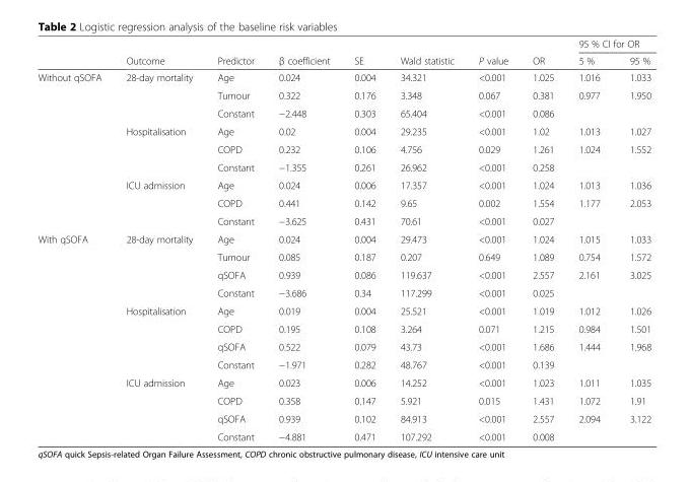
<table><thead><tr><td rowspan="2"></td><td rowspan="2">Outcome</td><td rowspan="2">Predictor</td><td rowspan="2">β coefficient</td><td rowspan="2">SE</td><td rowspan="2">Wald statistic</td><td rowspan="2">P value</td><td rowspan="2">OR</td><td colspan="2">95 % CI for OR</td></tr><tr><td>5 %</td><td>95 %</td></tr></thead><tbody><tr><td rowspan="9">Without qSOFA</td><td>28-day mortality</td><td>Age</td><td>0.024</td><td>0.004</td><td>34.321</td><td>&lt;0.001</td><td>1.025</td><td>1.016</td><td>1.033</td></tr><tr><td></td><td>Tumour</td><td>0.322</td><td>0.176</td><td>3.348</td><td>0.067</td><td>0.381</td><td>0.977</td><td>1.950</td></tr><tr><td></td><td>Constant</td><td>−2.448</td><td>0.303</td><td>65.404</td><td>&lt;0.001</td><td>0.086</td><td></td><td></td></tr><tr><td>Hospitalisation</td><td>Age</td><td>0.02</td><td>0.004</td><td>29.235</td><td>&lt;0.001</td><td>1.02</td><td>1.013</td><td>1.027</td></tr><tr><td></td><td>COPD</td><td>0.232</td><td>0.106</td><td>4.756</td><td>0.029</td><td>1.261</td><td>1.024</td><td>1.552</td></tr><tr><td></td><td>Constant</td><td>−1.355</td><td>0.261</td><td>26.962</td><td>&lt;0.001</td><td>0.258</td><td></td><td></td></tr><tr><td>ICU admission</td><td>Age</td><td>0.024</td><td>0.006</td><td>17.357</td><td>&lt;0.001</td><td>1.024</td><td>1.013</td><td>1.036</td></tr><tr><td></td><td>COPD</td><td>0.441</td><td>0.142</td><td>9.65</td><td>0.002</td><td>1.554</td><td>1.177</td><td>2.053</td></tr><tr><td></td><td>Constant</td><td>−3.625</td><td>0.431</td><td>70.61</td><td>&lt;0.001</td><td>0.027</td><td></td><td></td></tr><tr><td rowspan="12">With qSOFA</td><td>28-day mortality</td><td>Age</td><td>0.024</td><td>0.004</td><td>29.473</td><td>&lt;0.001</td><td>1.024</td><td>1.015</td><td>1.033</td></tr><tr><td></td><td>Tumour</td><td>0.085</td><td>0.187</td><td>0.207</td><td>0.649</td><td>1.089</td><td>0.754</td><td>1.572</td></tr><tr><td></td><td>qSOFA</td><td>0.939</td><td>0.086</td><td>119.637</td><td>&lt;0.001</td><td>2.557</td><td>2.161</td><td>3.025</td></tr><tr><td></td><td>Constant</td><td>−3.686</td><td>0.34</td><td>117.299</td><td>&lt;0.001</td><td>0.025</td><td></td><td></td></tr><tr><td>Hospitalisation</td><td>Age</td><td>0.019</td><td>0.004</td><td>25.521</td><td>&lt;0.001</td><td>1.019</td><td>1.012</td><td>1.026</td></tr><tr><td></td><td>COPD</td><td>0.195</td><td>0.108</td><td>3.264</td><td>0.071</td><td>1.215</td><td>0.984</td><td>1.501</td></tr><tr><td></td><td>qSOFA</td><td>0.522</td><td>0.079</td><td>43.73</td><td>&lt;0.001</td><td>1.686</td><td>1.444</td><td>1.968</td></tr><tr><td></td><td>Constant</td><td>−1.971</td><td>0.282</td><td>48.767</td><td>&lt;0.001</td><td>0.139</td><td></td><td></td></tr><tr><td>ICU admission</td><td>Age</td><td>0.023</td><td>0.006</td><td>14.252</td><td>&lt;0.001</td><td>1.023</td><td>1.011</td><td>1.035</td></tr><tr><td></td><td>COPD</td><td>0.358</td><td>0.147</td><td>5.921</td><td>0.015</td><td>1.431</td><td>1.072</td><td>1.91</td></tr><tr><td></td><td>qSOFA</td><td>0.939</td><td>0.102</td><td>84.913</td><td>&lt;0.001</td><td>2.557</td><td>2.094</td><td>3.122</td></tr><tr><td></td><td>Constant</td><td>−4.881</td><td>0.471</td><td>107.292</td><td>&lt;0.001</td><td>0.008</td><td></td><td></td></tr></tbody></table>